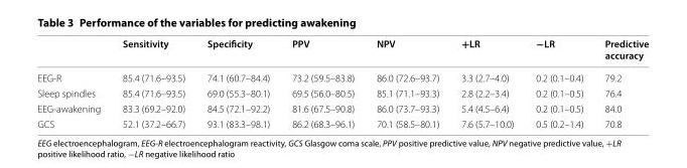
<table><thead><tr><td></td><td>Sensitivity</td><td>Specificity</td><td>PPV</td><td>NPV</td><td>+LR</td><td>−LR</td><td>Predictive accuracy</td></tr></thead><tbody><tr><td>EEG‑R</td><td>85.4 (71.6–93.5)</td><td>74.1 (60.7–84.4)</td><td>73.2 (59.5–83.8)</td><td>86.0 (72.6–93.7)</td><td>3.3 (2.7–4.0)</td><td>0.2 (0.1–0.4)</td><td>79.2</td></tr><tr><td>Sleep spindles</td><td>85.4 (71.6–93.5)</td><td>69.0 (55.3–80.1)</td><td>69.5 (56.0–80.5)</td><td>85.1 (71.1–93.3)</td><td>2.8 (2.2–3.4)</td><td>0.2 (0.1–0.5)</td><td>76.4</td></tr><tr><td>EEG‑awakening</td><td>83.3 (69.2–92.0)</td><td>84.5 (72.1–92.2)</td><td>81.6 (67.5–90.8)</td><td>86.0 (73.7–93.3)</td><td>5.4 (4.5–6.4)</td><td>0.2 (0.1–0.5)</td><td>84.0</td></tr><tr><td>GCS</td><td>52.1 (37.2–66.7)</td><td>93.1 (83.3–98.1)</td><td>86.2 (68.3–96.1)</td><td>70.1 (58.5–80.1)</td><td>7.6 (5.7–10.0)</td><td>0.5 (0.2–1.4)</td><td>70.8</td></tr></tbody></table>